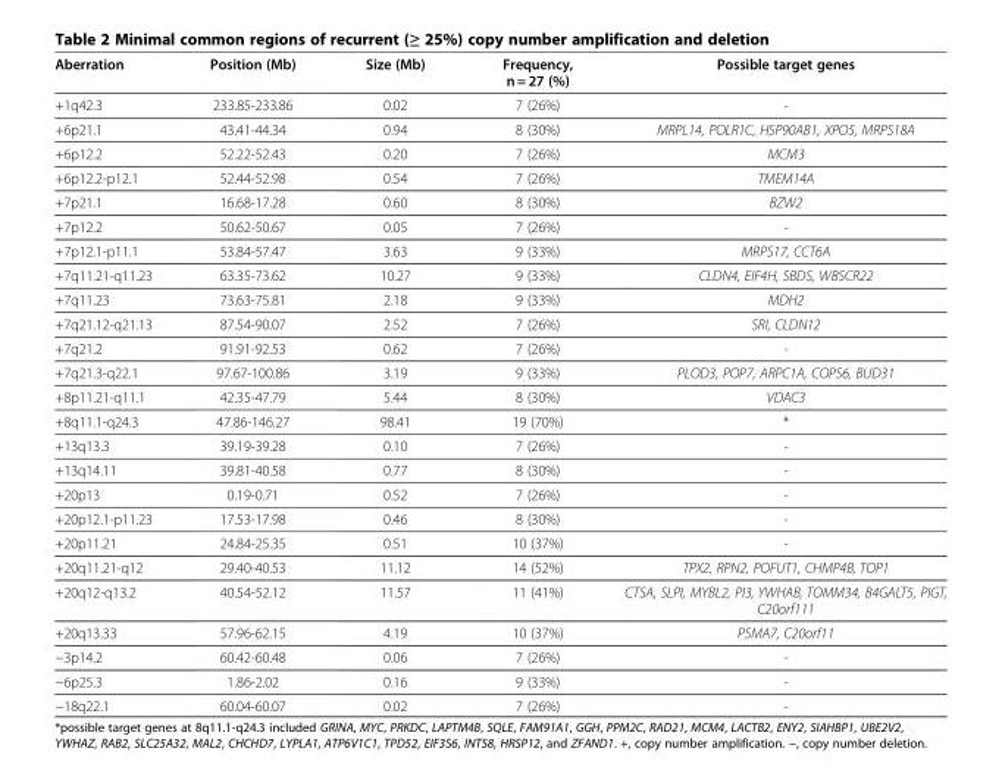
<table><thead><tr><td>Aberration</td><td>Position (Mb)</td><td>Size (Mb)</td><td>Frequency, n = 27 (%)</td><td>Possible target genes</td></tr></thead><tbody><tr><td>+1q42.3</td><td>233.85-233.86</td><td>0.02</td><td>7 (26%)</td><td>-</td></tr><tr><td>+6p21.1</td><td>43.41-44.34</td><td>0.94</td><td>8 (30%)</td><td>MRPL14, POLR1C, HSP90AB1, XPO5, MRPS18A</td></tr><tr><td>+6p12.2</td><td>52.22-52.43</td><td>0.20</td><td>7 (26%)</td><td>MCM3</td></tr><tr><td>+6p12.2-p12.1</td><td>52.44-52.98</td><td>0.54</td><td>7 (26%)</td><td>TMEM14A</td></tr><tr><td>+7p21.1</td><td>16.68-17.28</td><td>0.60</td><td>8 (30%)</td><td>BZW2</td></tr><tr><td>+7p12.2</td><td>50.62-50.67</td><td>0.05</td><td>7 (26%)</td><td>-</td></tr><tr><td>+7p12.1-p11.1</td><td>53.84-57.47</td><td>3.63</td><td>9 (33%)</td><td>MRPS17, CCT6A</td></tr><tr><td>+7q11.21-q11.23</td><td>63.35-73.62</td><td>10.27</td><td>9 (33%)</td><td>CLDN4, EIF4H, SBDS, WBSCR22</td></tr><tr><td>+7q11.23</td><td>73.63-75.81</td><td>2.18</td><td>9 (33%)</td><td>MDH2</td></tr><tr><td>+7q21.12-q21.13</td><td>87.54-90.07</td><td>2.52</td><td>7 (26%)</td><td>SRI, CLDN12</td></tr><tr><td>+7q21.2</td><td>91.91-92.53</td><td>0.62</td><td>7 (26%)</td><td>-</td></tr><tr><td>+7q21.3-q22.1</td><td>97.67-100.86</td><td>3.19</td><td>9 (33%)</td><td>PLOD3, POP7, ARPC1A, COPS6, BUD31</td></tr><tr><td>+8p11.21-q11.1</td><td>42.35-47.79</td><td>5.44</td><td>8 (30%)</td><td>VDAC3</td></tr><tr><td>+8q11.1-q24.3</td><td>47.86-146.27</td><td>98.41</td><td>19 (70%)</td><td>*</td></tr><tr><td>+13q13.3</td><td>39.19-39.28</td><td>0.10</td><td>7 (26%)</td><td>-</td></tr><tr><td>+13q14.11</td><td>39.81-40.58</td><td>0.77</td><td>8 (30%)</td><td>-</td></tr><tr><td>+20p13</td><td>0.19-0.71</td><td>0.52</td><td>7 (26%)</td><td>-</td></tr><tr><td>+20p12.1-p11.23</td><td>17.53-17.98</td><td>0.46</td><td>8 (30%)</td><td>-</td></tr><tr><td>+20p11.21</td><td>24.84-25.35</td><td>0.51</td><td>10 (37%)</td><td>-</td></tr><tr><td>+20q11.21-q12</td><td>29.40-40.53</td><td>11.12</td><td>14 (52%)</td><td>TPX2, RPN2, POFUT1, CHMP4B, TOP1</td></tr><tr><td>+20q12-q13.2</td><td>40.54-52.12</td><td>11.57</td><td>11 (41%)</td><td>CTSA, SLPI, MYBL2, PI3, YWHAB, TOMM34, B4GALT5, PIGT, C20orf111</td></tr><tr><td>+20q13.33</td><td>57.96-62.15</td><td>4.19</td><td>10 (37%)</td><td>PSMA7, C20orf11</td></tr><tr><td>−3p14.2</td><td>60.42-60.48</td><td>0.06</td><td>7 (26%)</td><td>-</td></tr><tr><td>−6p25.3</td><td>1.86-2.02</td><td>0.16</td><td>9 (33%)</td><td>-</td></tr><tr><td>−18q22.1</td><td>60.04-60.07</td><td>0.02</td><td>7 (26%)</td><td>-</td></tr></tbody></table>